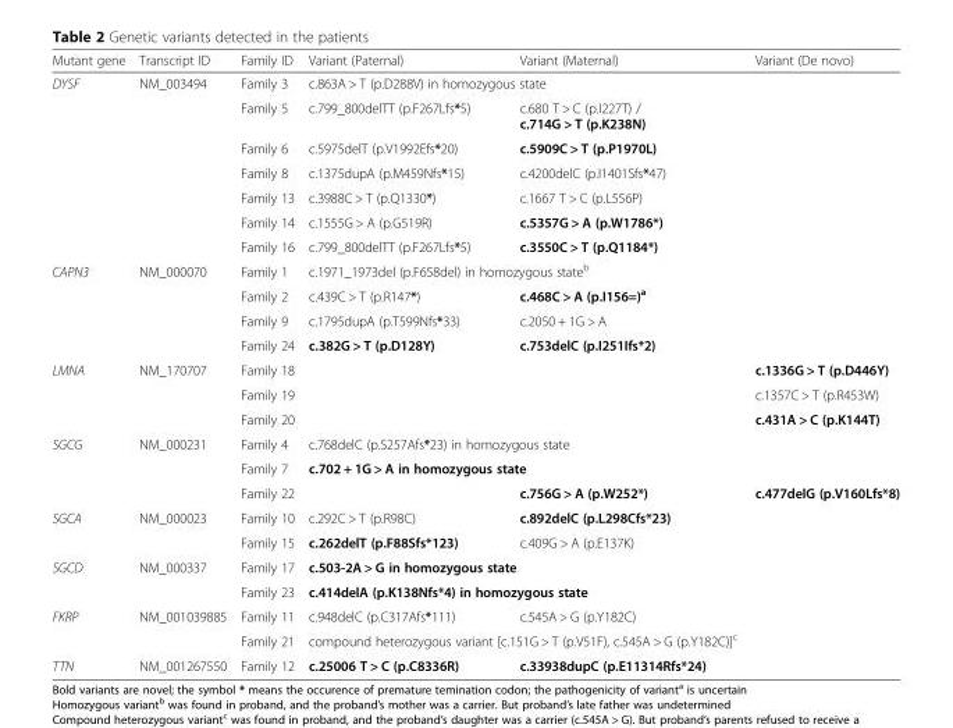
<table><thead><tr><td>Mutant gene</td><td>Transcript ID</td><td>Family ID</td><td>Variant (Paternal)</td><td>Variant (Maternal)</td><td>Variant (De novo)</td></tr></thead><tbody><tr><td rowspan="7">DYSF</td><td rowspan="7">NM_003494</td><td>Family 3</td><td colspan="2">c.863A &gt; T (p.D288V) in homozygous state</td><td></td></tr><tr><td>Family 5</td><td>c.799_800delTT (p.F267Lfs*5)</td><td>c.680 T &gt; C (p.I227T) / c.714G &gt; T (p.K238N)</td><td></td></tr><tr><td>Family 6</td><td>c.5975delT (p.V1992Efs*20)</td><td>c.5909C &gt; T (p.P1970L)</td><td></td></tr><tr><td>Family 8</td><td>c.1375dupA (p.M459Nfs*15)</td><td>c.4200delC (p.I1401Sfs*47)</td><td></td></tr><tr><td>Family 13</td><td>c.3988C &gt; T (p.Q1330*)</td><td>c.1667 T &gt; C (p.L556P)</td><td></td></tr><tr><td>Family 14</td><td>c.1555G &gt; A (p.G519R)</td><td>c.5357G &gt; A (p.W1786*)</td><td></td></tr><tr><td>Family 16</td><td>c.799_800delTT (p.F267Lfs*5)</td><td>c.3550C &gt; T (p.Q1184*)</td><td></td></tr><tr><td rowspan="4">CAPN3</td><td rowspan="4">NM_000070</td><td>Family 1</td><td colspan="2">c.1971_1973del (p.F658del) in homozygous state<sup>b</sup></td><td></td></tr><tr><td>Family 2</td><td>c.439C &gt; T (p.R147*)</td><td>c.468C &gt; A (p.I156=)<sup>a</sup></td><td></td></tr><tr><td>Family 9</td><td>c.1795dupA (p.T599Nfs*33)</td><td>c.2050 + 1G &gt; A</td><td></td></tr><tr><td>Family 24</td><td>c.382G &gt; T (p.D128Y)</td><td>c.753delC (p.I251Ifs*2)</td><td></td></tr><tr><td rowspan="3">LMNA</td><td rowspan="3">NM_170707</td><td>Family 18</td><td></td><td></td><td>c.1336G &gt; T (p.D446Y)</td></tr><tr><td>Family 19</td><td></td><td></td><td>c.1357C &gt; T (p.R453W)</td></tr><tr><td>Family 20</td><td></td><td></td><td>c.431A &gt; C (p.K144T)</td></tr><tr><td rowspan="3">SGCG</td><td rowspan="3">NM_000231</td><td>Family 4</td><td colspan="2">c.768delC (p.S257Afs*23) in homozygous state</td><td></td></tr><tr><td>Family 7</td><td colspan="2">c.702 + 1G &gt; A in homozygous state</td><td></td></tr><tr><td>Family 22</td><td></td><td>c.756G &gt; A (p.W252*)</td><td>c.477delG (p.V160Lfs*8)</td></tr><tr><td rowspan="2">SGCA</td><td rowspan="2">NM_000023</td><td>Family 10</td><td>c.292C &gt; T (p.R98C)</td><td>c.892delC (p.L298Cfs*23)</td><td></td></tr><tr><td>Family 15</td><td>c.262delT (p.F88Sfs*123)</td><td>c.409G &gt; A (p.E137K)</td><td></td></tr><tr><td rowspan="2">SGCD</td><td rowspan="2">NM_000337</td><td>Family 17</td><td colspan="2">c.503-2A &gt; G in homozygous state</td><td></td></tr><tr><td>Family 23</td><td colspan="2">c.414delA (p.K138Nfs*4) in homozygous state</td><td></td></tr><tr><td rowspan="2">FKRP</td><td rowspan="2">NM_001039885</td><td>Family 11</td><td>c.948delC (p.C317Afs*111)</td><td>c.545A &gt; G (p.Y182C)</td><td></td></tr><tr><td>Family 21</td><td colspan="2">compound heterozygous variant [c.151G &gt; T (p.V51F), c.545A &gt; G (p.Y182C)]<sup>c</sup></td><td></td></tr><tr><td>TTN</td><td>NM_001267550</td><td>Family 12</td><td>c.25006 T &gt; C (p.C8336R)</td><td>c.33938dupC (p.E11314Rfs*24)</td><td></td></tr></tbody></table>